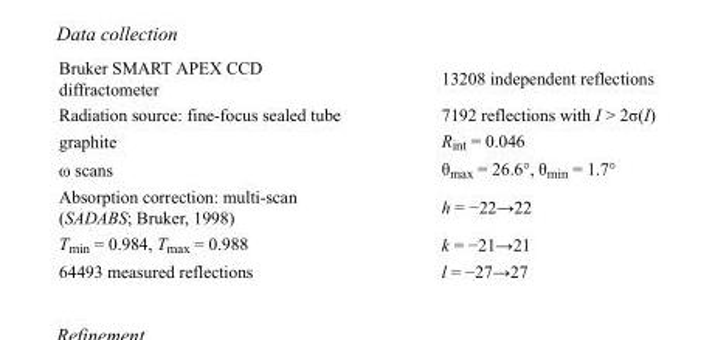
<table><tbody><tr><td>Bruker SMART APEX CCD diffractometer</td><td>13208 independent reflections</td></tr><tr><td>Radiation source: fine-focus sealed tube</td><td>7192 reflections with I &gt; 2σ(I)</td></tr><tr><td>graphite</td><td>R<sub>int</sub> = 0.046</td></tr><tr><td>ω scans</td><td>θ<sub>max</sub> = 26.6°, θ<sub>min</sub> = 1.7°</td></tr><tr><td>Absorption correction: multi-scan (SADABS; Bruker, 1998)</td><td>h = −22→22</td></tr><tr><td>T<sub>min</sub> = 0.984, T<sub>max</sub> = 0.988</td><td>k = −21→21</td></tr><tr><td>64493 measured reflections</td><td>l = −27→27</td></tr></tbody></table>